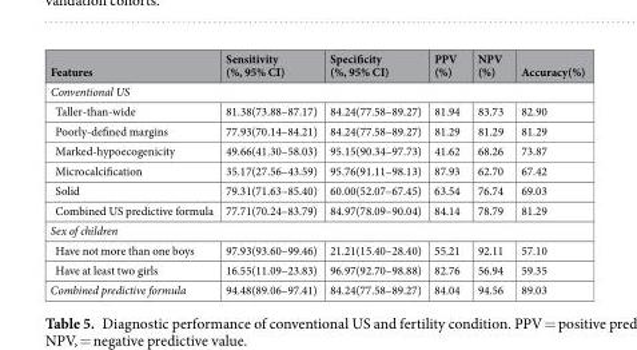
<table><thead><tr><td>Features</td><td>Sensitivity (%, 95% CI)</td><td>Specificity (%, 95% CI)</td><td>PPV (%)</td><td>NPV (%)</td><td>Accuracy(%)</td></tr></thead><tbody><tr><td colspan="6">Conventional US</td></tr><tr><td>Taller-than-wide</td><td>81.38(73.88–87.17)</td><td>84.24(77.58–89.27)</td><td>81.94</td><td>83.73</td><td>82.90</td></tr><tr><td>Poorly-defined margins</td><td>77.93(70.14–84.21)</td><td>84.24(77.58–89.27)</td><td>81.29</td><td>81.29</td><td>81.29</td></tr><tr><td>Marked-hypoecogenicity</td><td>49.66(41.30–58.03)</td><td>95.15(90.34–97.73)</td><td>41.62</td><td>68.26</td><td>73.87</td></tr><tr><td>Microcalcification</td><td>35.17(27.56–43.59)</td><td>95.76(91.11–98.13)</td><td>87.93</td><td>62.70</td><td>67.42</td></tr><tr><td>Solid</td><td>79.31(71.63–85.40)</td><td>60.00(52.07–67.45)</td><td>63.54</td><td>76.74</td><td>69.03</td></tr><tr><td>Combined US predictive formula</td><td>77.71(70.24–83.79)</td><td>84.97(78.09–90.04)</td><td>84.14</td><td>78.79</td><td>81.29</td></tr><tr><td colspan="6">Sex of children</td></tr><tr><td>Have not more than one boys</td><td>97.93(93.60–99.46)</td><td>21.21(15.40–28.40)</td><td>55.21</td><td>92.11</td><td>57.10</td></tr><tr><td>Have at least two girls</td><td>16.55(11.09–23.83)</td><td>96.97(92.70–98.88)</td><td>82.76</td><td>56.94</td><td>59.35</td></tr><tr><td>Combined predictive formula</td><td>94.48(89.06–97.41)</td><td>84.24(77.58–89.27)</td><td>84.04</td><td>94.56</td><td>89.03</td></tr></tbody></table>